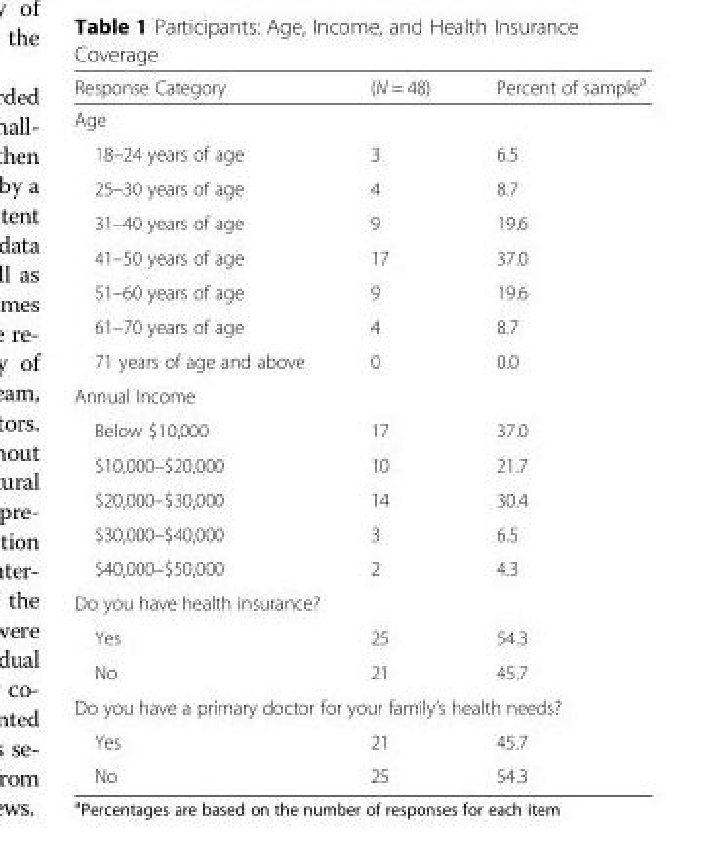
<table><thead><tr><td>Response Category</td><td>(N = 48)</td><td>Percent of sample<sup>a</sup></td></tr></thead><tbody><tr><td colspan="3">Age</td></tr><tr><td>18–24 years of age</td><td>3</td><td>6.5</td></tr><tr><td>25–30 years of age</td><td>4</td><td>8.7</td></tr><tr><td>31–40 years of age</td><td>9</td><td>19.6</td></tr><tr><td>41–50 years of age</td><td>17</td><td>37.0</td></tr><tr><td>51–60 years of age</td><td>9</td><td>19.6</td></tr><tr><td>61–70 years of age</td><td>4</td><td>8.7</td></tr><tr><td>71 years of age and above</td><td>0</td><td>0.0</td></tr><tr><td colspan="3">Annual Income</td></tr><tr><td>Below $10,000</td><td>17</td><td>37.0</td></tr><tr><td>$10,000–$20,000</td><td>10</td><td>21.7</td></tr><tr><td>$20,000–$30,000</td><td>14</td><td>30.4</td></tr><tr><td>$30,000–$40,000</td><td>3</td><td>6.5</td></tr><tr><td>$40,000–$50,000</td><td>2</td><td>4.3</td></tr><tr><td colspan="3">Do you have health insurance?</td></tr><tr><td>Yes</td><td>25</td><td>54.3</td></tr><tr><td>No</td><td>21</td><td>45.7</td></tr><tr><td colspan="3">Do you have a primary doctor for your family’s health needs?</td></tr><tr><td>Yes</td><td>21</td><td>45.7</td></tr><tr><td>No</td><td>25</td><td>54.3</td></tr></tbody></table>